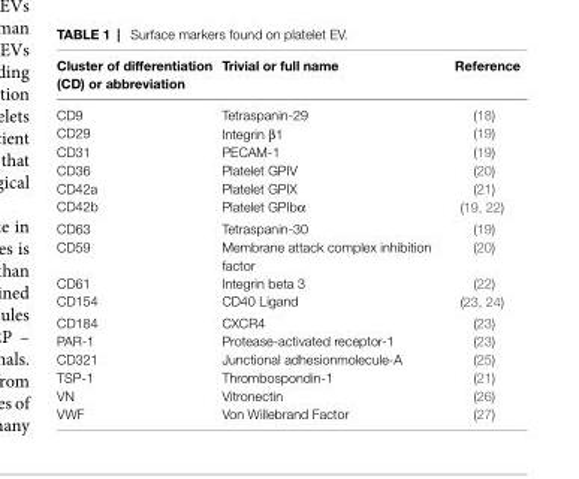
<table><thead><tr><td>Cluster of differentiation (CD) or abbreviation</td><td>trivial or full name</td><td>Reference</td></tr></thead><tbody><tr><td>CD9</td><td>Tetraspanin-29</td><td>(18)</td></tr><tr><td>CD29</td><td>Integrin β1</td><td>(19)</td></tr><tr><td>CD31</td><td>PECAM-1</td><td>(19)</td></tr><tr><td>CD36</td><td>Platelet GPIV</td><td>(20)</td></tr><tr><td>CD42a</td><td>Platelet GPIX</td><td>(21)</td></tr><tr><td>CD42b</td><td>Platelet GPIbα</td><td>(19, 22)</td></tr><tr><td>CD63</td><td>Tetraspanin-30</td><td>(19)</td></tr><tr><td>CD59</td><td>Membrane attack complex inhibition factor</td><td>(20)</td></tr><tr><td>CD61</td><td>Integrin beta 3</td><td>(22)</td></tr><tr><td>CD154</td><td>CD40 Ligand</td><td>(23, 24)</td></tr><tr><td>CD184</td><td>CXCR4</td><td>(23)</td></tr><tr><td>PAR-1</td><td>Protease-activated receptor-1</td><td>(23)</td></tr><tr><td>CD321</td><td>Junctional adhesionmolecule-A</td><td>(25)</td></tr><tr><td>TSP-1</td><td>Thrombospondin-1</td><td>(21)</td></tr><tr><td>VN</td><td>Vitronectin</td><td>(26)</td></tr><tr><td>VWF</td><td>Von Willebrand Factor</td><td>(27)</td></tr></tbody></table>